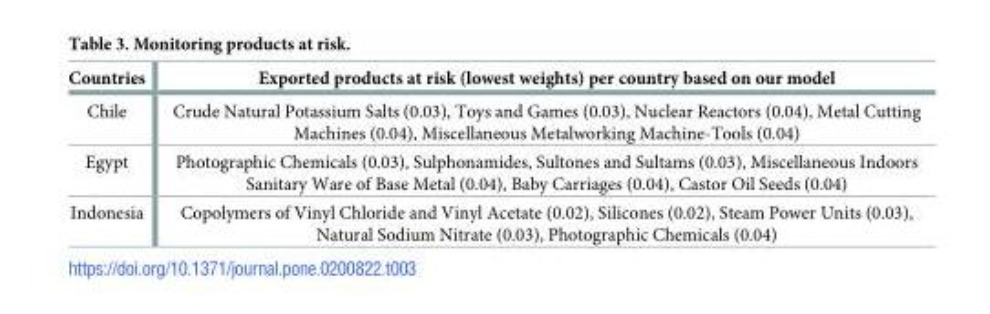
<table><thead><tr><td>Countries</td><td>Exported products at risk (lowest weights) per country based on our model</td></tr></thead><tbody><tr><td>Chile</td><td>Crude Natural Potassium Salts (0.03), Toys and Games (0.03), Nuclear Reactors (0.04), Metal Cutting Machines (0.04), Miscellaneous Metalworking Machine-Tools (0.04)</td></tr><tr><td>Egypt</td><td>Photographic Chemicals (0.03), Sulphonamides, Sultones and Sultams (0.03), Miscellaneous Indoors Sanitary Ware of Base Metal (0.04), Baby Carriages (0.04), Castor Oil Seeds (0.04)</td></tr><tr><td>Indonesia</td><td>Copolymers of Vinyl Chloride and Vinyl Acetate (0.02), Silicones (0.02), Steam Power Units (0.03), Natural Sodium Nitrate (0.03), Photographic Chemicals (0.04)</td></tr></tbody></table>